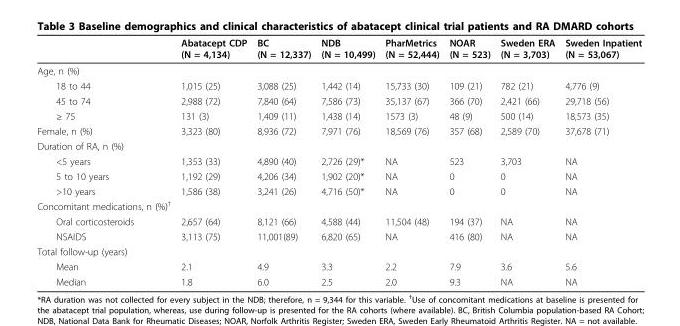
<table><thead><tr><td></td><td>Abatacept CDP (N = 4,134)</td><td>BC (N = 12,337)</td><td>NDB (N = 10,499)</td><td>PharMetrics (N = 52,444)</td><td>NOAR (N = 523)</td><td>Sweden ERA (N = 3,703)</td><td>Sweden Inpatient (N = 53,067)</td></tr></thead><tbody><tr><td colspan="8">Age, n (%)</td></tr><tr><td>18 to 44</td><td>1,015 (25)</td><td>3,088 (25)</td><td>1,442 (14)</td><td>15,733 (30)</td><td>109 (21)</td><td>782 (21)</td><td>4,776 (9)</td></tr><tr><td>45 to 74</td><td>2,988 (72)</td><td>7,840 (64)</td><td>7,586 (73)</td><td>35,137 (67)</td><td>366 (70)</td><td>2,421 (66)</td><td>29,718 (56)</td></tr><tr><td>≥ 75</td><td>131 (3)</td><td>1,409 (11)</td><td>1,438 (14)</td><td>1573 (3)</td><td>48 (9)</td><td>500 (14)</td><td>18,573 (35)</td></tr><tr><td>Female, n (%)</td><td>3,323 (80)</td><td>8,936 (72)</td><td>7,971 (76)</td><td>18,569 (76)</td><td>357 (68)</td><td>2,589 (70)</td><td>37,678 (71)</td></tr><tr><td colspan="8">Duration of RA, n (%)</td></tr><tr><td>&lt;5 years</td><td>1,353 (33)</td><td>4,890 (40)</td><td>2,726 (29)*</td><td>NA</td><td>523</td><td>3,703</td><td>NA</td></tr><tr><td>5 to 10 years</td><td>1,192 (29)</td><td>4,206 (34)</td><td>1,902 (20)*</td><td>NA</td><td>0</td><td>0</td><td>NA</td></tr><tr><td>&gt;10 years</td><td>1,586 (38)</td><td>3,241 (26)</td><td>4,716 (50)*</td><td>NA</td><td>0</td><td>0</td><td>NA</td></tr><tr><td colspan="8">Concomitant medications, n (%)<sup>†</sup></td></tr><tr><td>Oral corticosteroids</td><td>2,657 (64)</td><td>8,121 (66)</td><td>4,588 (44)</td><td>11,504 (48)</td><td>194 (37)</td><td>NA</td><td>NA</td></tr><tr><td>NSAIDS</td><td>3,113 (75)</td><td>11,001(89)</td><td>6,820 (65)</td><td>NA</td><td>416 (80)</td><td>NA</td><td>NA</td></tr><tr><td colspan="8">Total follow-up (years)</td></tr><tr><td>Mean</td><td>2.1</td><td>4.9</td><td>3.3</td><td>2.2</td><td>7.9</td><td>3.6</td><td>5.6</td></tr><tr><td>Median</td><td>1.8</td><td>6.0</td><td>2.5</td><td>2.0</td><td>9.3</td><td>NA</td><td>NA</td></tr></tbody></table>